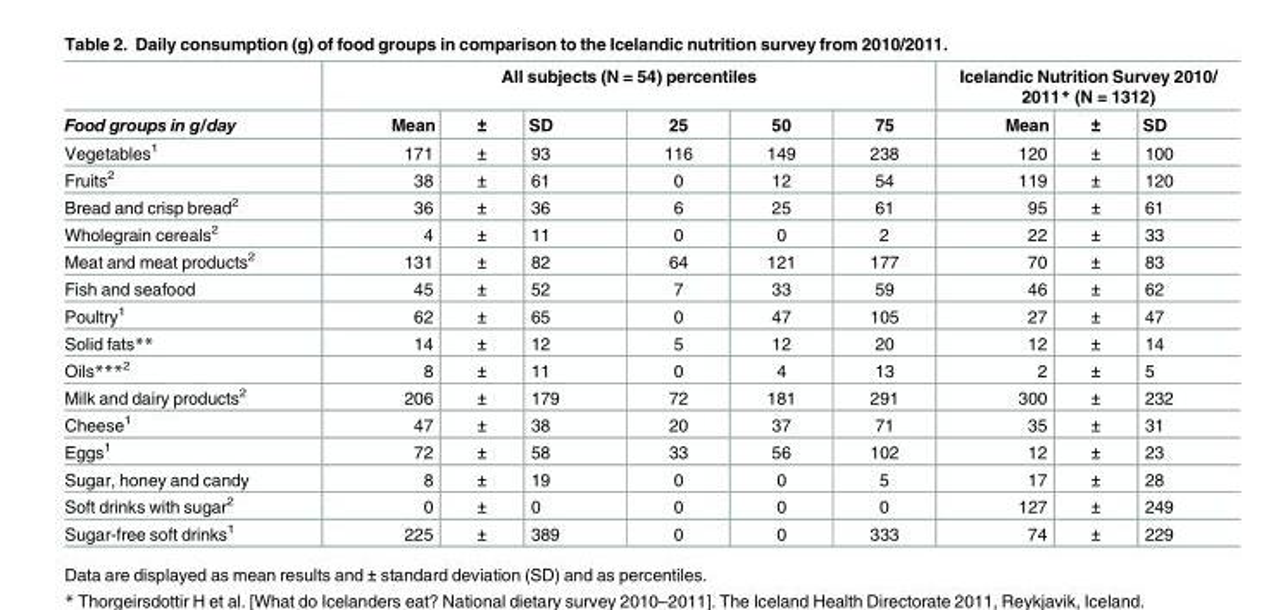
<table><thead><tr><td rowspan="2">Food groups in g/day</td><td colspan="6">All subjects (N = 54) percentiles</td><td colspan="3">Icelandic Nutrition Survey 2010/ 2011* (N = 1312)</td></tr><tr><td>Mean</td><td>±</td><td>SD</td><td>25</td><td>50</td><td>75</td><td>Mean</td><td>±</td><td>SD</td></tr></thead><tbody><tr><td>Vegetables<sup>1</sup></td><td>171</td><td>±</td><td>93</td><td>116</td><td>149</td><td>238</td><td>120</td><td>±</td><td>100</td></tr><tr><td>Fruits<sup>2</sup></td><td>38</td><td>±</td><td>61</td><td>0</td><td>12</td><td>54</td><td>119</td><td>±</td><td>120</td></tr><tr><td>Bread and crisp bread<sup>2</sup></td><td>36</td><td>±</td><td>36</td><td>6</td><td>25</td><td>61</td><td>95</td><td>±</td><td>61</td></tr><tr><td>Wholegrain cereals<sup>2</sup></td><td>4</td><td>±</td><td>11</td><td>0</td><td>0</td><td>2</td><td>22</td><td>±</td><td>33</td></tr><tr><td>Meat and meat products<sup>2</sup></td><td>131</td><td>±</td><td>82</td><td>64</td><td>121</td><td>177</td><td>70</td><td>±</td><td>83</td></tr><tr><td>Fish and seafood</td><td>45</td><td>±</td><td>52</td><td>7</td><td>33</td><td>59</td><td>46</td><td>±</td><td>62</td></tr><tr><td>Poultry<sup>1</sup></td><td>62</td><td>±</td><td>65</td><td>0</td><td>47</td><td>105</td><td>27</td><td>±</td><td>47</td></tr><tr><td>Solid fats**</td><td>14</td><td>±</td><td>12</td><td>5</td><td>12</td><td>20</td><td>12</td><td>±</td><td>14</td></tr><tr><td>Oils***<sup>2</sup></td><td>8</td><td>±</td><td>11</td><td>0</td><td>4</td><td>13</td><td>2</td><td>±</td><td>5</td></tr><tr><td>Milk and dairy products<sup>2</sup></td><td>206</td><td>±</td><td>179</td><td>72</td><td>181</td><td>291</td><td>300</td><td>±</td><td>232</td></tr><tr><td>Cheese<sup>1</sup></td><td>47</td><td>±</td><td>38</td><td>20</td><td>37</td><td>71</td><td>35</td><td>±</td><td>31</td></tr><tr><td>Eggs<sup>1</sup></td><td>72</td><td>±</td><td>58</td><td>33</td><td>56</td><td>102</td><td>12</td><td>±</td><td>23</td></tr><tr><td>Sugar, honey and candy</td><td>8</td><td>±</td><td>19</td><td>0</td><td>0</td><td>5</td><td>17</td><td>±</td><td>28</td></tr><tr><td>Soft drinks with sugar<sup>2</sup></td><td>0</td><td>±</td><td>0</td><td>0</td><td>0</td><td>0</td><td>127</td><td>±</td><td>249</td></tr><tr><td>Sugar-free soft drinks<sup>1</sup></td><td>225</td><td>±</td><td>389</td><td>0</td><td>0</td><td>333</td><td>74</td><td>±</td><td>229</td></tr></tbody></table>